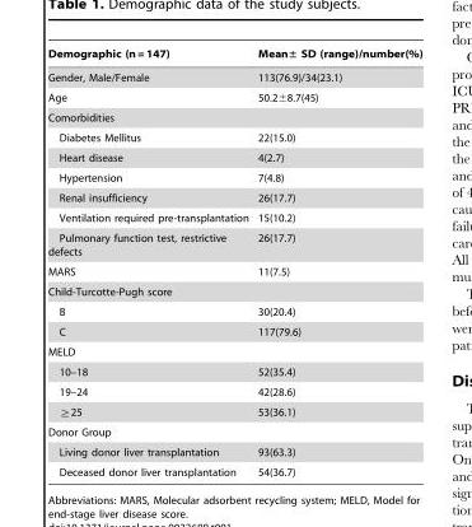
<table><thead><tr><td>Demographic (n = 147)</td><td>Mean± SD (range)/number(%)</td></tr></thead><tbody><tr><td>Gender, Male/Female</td><td>113(76.9)/34(23.1)</td></tr><tr><td>Age</td><td>50.2±8.7(45)</td></tr><tr><td colspan="2">Comorbidities</td></tr><tr><td>Diabetes Mellitus</td><td>22(15.0)</td></tr><tr><td>Heart disease</td><td>4(2.7)</td></tr><tr><td>Hypertension</td><td>7(4.8)</td></tr><tr><td>Renal insufficiency</td><td>26(17.7)</td></tr><tr><td>Ventilation required pre-transplantation</td><td>15(10.2)</td></tr><tr><td>Pulmonary function test, restrictive defects</td><td>26(17.7)</td></tr><tr><td>MARS</td><td>11(7.5)</td></tr><tr><td colspan="2">Child-Turcotte-Pugh score</td></tr><tr><td>B</td><td>30(20.4)</td></tr><tr><td>C</td><td>117(79.6)</td></tr><tr><td colspan="2">MELD</td></tr><tr><td>10–18</td><td>52(35.4)</td></tr><tr><td>19–24</td><td>42(28.6)</td></tr><tr><td>≧25</td><td>53(36.1)</td></tr><tr><td colspan="2">Donor Group</td></tr><tr><td>Living donor liver transplantation</td><td>93(63.3)</td></tr><tr><td>Deceased donor liver transplantation</td><td>54(36.7)</td></tr></tbody></table>